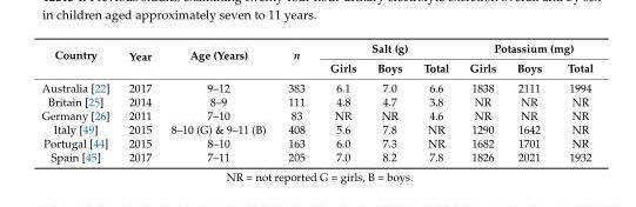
<table><thead><tr><td rowspan="2">Country</td><td rowspan="2">Year</td><td rowspan="2">Age (Years)</td><td rowspan="2">n</td><td colspan="3">Salt (g)</td><td colspan="3">Potassium (mg)</td></tr><tr><td>Girls</td><td>Boys</td><td>Total</td><td>Girls</td><td>Boys</td><td>Total</td></tr></thead><tbody><tr><td>Australia [22]</td><td>2017</td><td>9–12</td><td>383</td><td>6.1</td><td>7.0</td><td>6.6</td><td>1838</td><td>2111</td><td>1994</td></tr><tr><td>Britain [25]</td><td>2014</td><td>8–9</td><td>111</td><td>4.8</td><td>4.7</td><td>3.8</td><td>NR</td><td>NR</td><td>NR</td></tr><tr><td>Germany [26]</td><td>2011</td><td>7–10</td><td>83</td><td>NR</td><td>NR</td><td>4.6</td><td>NR</td><td>NR</td><td>NR</td></tr><tr><td>Italy [49]</td><td>2015</td><td>8–10 (G) &amp; 9–11 (B)</td><td>408</td><td>5.6</td><td>7.8</td><td>NR</td><td>1290</td><td>1642</td><td>NR</td></tr><tr><td>Portugal [44]</td><td>2015</td><td>8–10</td><td>163</td><td>6.0</td><td>7.3</td><td>NR</td><td>1682</td><td>1701</td><td>NR</td></tr><tr><td>Spain [45]</td><td>2017</td><td>7–11</td><td>205</td><td>7.0</td><td>8.2</td><td>7.8</td><td>1826</td><td>2021</td><td>1932</td></tr></tbody></table>